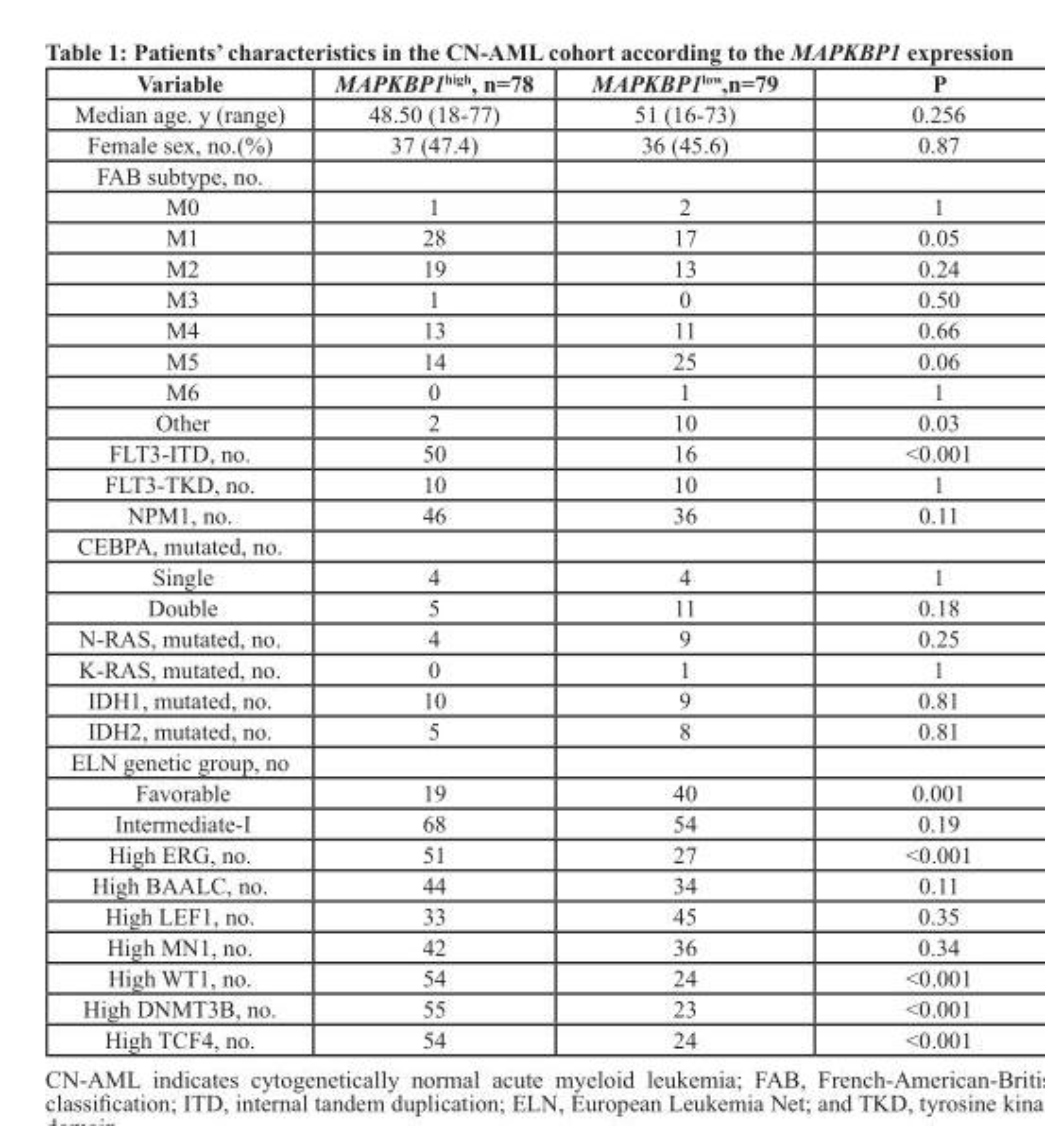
<table><thead><tr><td>Variable</td><td>MAPKBP1<sup>high</sup>, n=78</td><td>MAPKBP1<sup>low</sup>,n=79</td><td>P</td></tr></thead><tbody><tr><td>Median age. y (range)</td><td>48.50 (18-77)</td><td>51 (16-73)</td><td>0.256</td></tr><tr><td>Female sex, no.(%)</td><td>37 (47.4)</td><td>36 (45.6)</td><td>0.87</td></tr><tr><td colspan="4">FAB subtype, no.</td></tr><tr><td>M0</td><td>1</td><td>2</td><td>1</td></tr><tr><td>M1</td><td>28</td><td>17</td><td>0.05</td></tr><tr><td>M2</td><td>19</td><td>13</td><td>0.24</td></tr><tr><td>M3</td><td>1</td><td>0</td><td>0.50</td></tr><tr><td>M4</td><td>13</td><td>11</td><td>0.66</td></tr><tr><td>M5</td><td>14</td><td>25</td><td>0.06</td></tr><tr><td>M6</td><td>0</td><td>1</td><td>1</td></tr><tr><td>Other</td><td>2</td><td>10</td><td>0.03</td></tr><tr><td>FLT3-ITD, no.</td><td>50</td><td>16</td><td>&lt;0.001</td></tr><tr><td>FLT3-TKD, no.</td><td>10</td><td>10</td><td>1</td></tr><tr><td>NPM1, no.</td><td>46</td><td>36</td><td>0.11</td></tr><tr><td colspan="4">CEBPA, mutated, no.</td></tr><tr><td>Single</td><td>4</td><td>4</td><td>1</td></tr><tr><td>Double</td><td>5</td><td>11</td><td>0.18</td></tr><tr><td>N-RAS, mutated, no.</td><td>4</td><td>9</td><td>0.25</td></tr><tr><td>K-RAS, mutated, no.</td><td>0</td><td>1</td><td>1</td></tr><tr><td>IDH1, mutated, no.</td><td>10</td><td>9</td><td>0.81</td></tr><tr><td>IDH2, mutated, no.</td><td>5</td><td>8</td><td>0.81</td></tr><tr><td colspan="4">ELN genetic group, no</td></tr><tr><td>Favorable</td><td>19</td><td>40</td><td>0.001</td></tr><tr><td>Intermediate-I</td><td>68</td><td>54</td><td>0.19</td></tr><tr><td>High ERG, no.</td><td>51</td><td>27</td><td>&lt;0.001</td></tr><tr><td>High BAALC, no.</td><td>44</td><td>34</td><td>0.11</td></tr><tr><td>High LEF1, no.</td><td>33</td><td>45</td><td>0.35</td></tr><tr><td>High MN1, no.</td><td>42</td><td>36</td><td>0.34</td></tr><tr><td>High WT1, no.</td><td>54</td><td>24</td><td>&lt;0.001</td></tr><tr><td>High DNMT3B, no.</td><td>55</td><td>23</td><td>&lt;0.001</td></tr><tr><td>High TCF4, no.</td><td>54</td><td>24</td><td>&lt;0.001</td></tr></tbody></table>